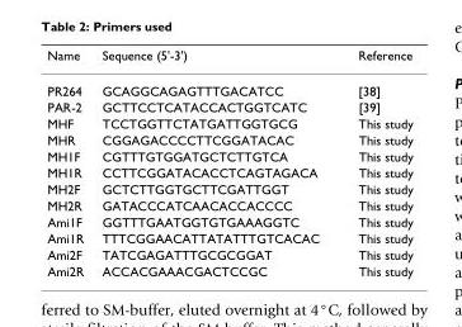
<table><thead><tr><td>Name</td><td>Sequence (5&#x27;-3&#x27;)</td><td>Reference</td></tr></thead><tbody><tr><td>PR264</td><td>GCAGGCAGAGTTTGACATCC</td><td>[38]</td></tr><tr><td>PAR-2</td><td>GCTTCCTCATACCACTGGTCATC</td><td>[39]</td></tr><tr><td>MHF</td><td>TCCTGGTTCTATGATTGGTGCG</td><td>This study</td></tr><tr><td>MHR</td><td>CGGAGACCCCTTCGGATACAC</td><td>This study</td></tr><tr><td>MH1F</td><td>CGTTTGTGGATGCTCTTGTCA</td><td>This study</td></tr><tr><td>MH1R</td><td>CCTTCGGATACACCTCAGTAGACA</td><td>This study</td></tr><tr><td>MH2F</td><td>GCTCTTGGTGCTTCGATTGGT</td><td>This study</td></tr><tr><td>MH2R</td><td>GATACCCATCAACACCACCCC</td><td>This study</td></tr><tr><td>Ami1F</td><td>GGTTTGAATGGTGTGAAAGGTC</td><td>This study</td></tr><tr><td>Ami1R</td><td>TTTCGGAACATTATATTTGTCACAC</td><td>This study</td></tr><tr><td>Ami2F</td><td>TATCGAGATTTGCGCGGAT</td><td>This study</td></tr><tr><td>Ami2R</td><td>ACCACGAAACGACTCCGC</td><td>This study</td></tr></tbody></table>